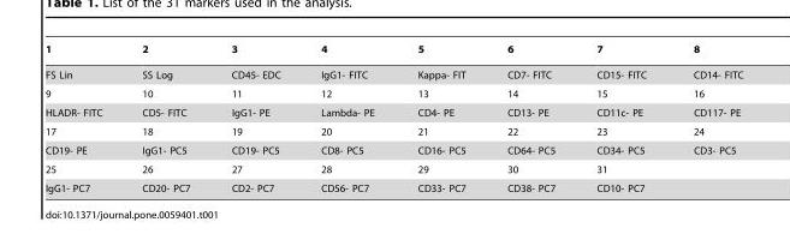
<table><thead><tr><td>1</td><td>2</td><td>3</td><td>4</td><td>5</td><td>6</td><td>7</td><td>8</td></tr></thead><tbody><tr><td>FS Lin</td><td>SS Log</td><td>CD45- EDC</td><td>IgG1- FITC</td><td>Kappa- FIT</td><td>CD7- FITC</td><td>CD15- FITC</td><td>CD14- FITC</td></tr><tr><td>9</td><td>10</td><td>11</td><td>12</td><td>13</td><td>14</td><td>15</td><td>16</td></tr><tr><td>HLADR- FITC</td><td>CD5- FITC</td><td>IgG1- PE</td><td>Lambda- PE</td><td>CD4- PE</td><td>CD13- PE</td><td>CD11c- PE</td><td>CD117- PE</td></tr><tr><td>17</td><td>18</td><td>19</td><td>20</td><td>21</td><td>22</td><td>23</td><td>24</td></tr><tr><td>CD19- PE</td><td>IgG1- PC5</td><td>CD19- PC5</td><td>CD8- PC5</td><td>CD16- PC5</td><td>CD64- PC5</td><td>CD34- PC5</td><td>CD3- PC5</td></tr><tr><td>25</td><td>26</td><td>27</td><td>28</td><td>29</td><td>30</td><td>31</td><td></td></tr><tr><td>IgG1- PC7</td><td>CD20- PC7</td><td>CD2- PC7</td><td>CD56- PC7</td><td>CD33- PC7</td><td>CD38- PC7</td><td>CD10- PC7</td><td></td></tr></tbody></table>